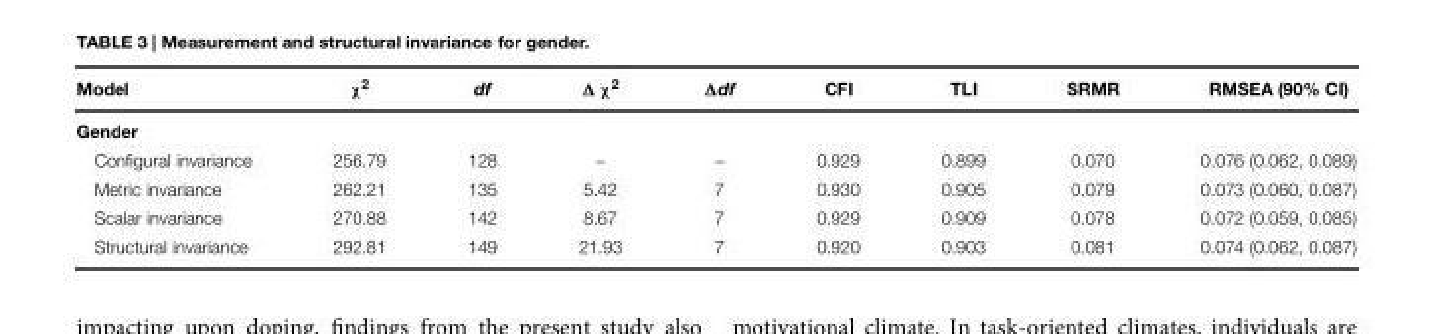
<table><thead><tr><td>Model</td><td>χ<sup>2</sup></td><td>df</td><td>Δ χ<sup>2</sup></td><td>Δdf</td><td>CFI</td><td>TLI</td><td>SRMR</td><td>RMSEA (90% CI)</td></tr></thead><tbody><tr><td colspan="9">Gender</td></tr><tr><td>Configural invariance</td><td>256.79</td><td>128</td><td>–</td><td>–</td><td>0.929</td><td>0.899</td><td>0.070</td><td>0.076 (0.062, 0.089)</td></tr><tr><td>Metric invariance</td><td>262.21</td><td>135</td><td>5.42</td><td>7</td><td>0.930</td><td>0.905</td><td>0.079</td><td>0.073 (0.060, 0.087)</td></tr><tr><td>Scalar invariance</td><td>270.88</td><td>142</td><td>8.67</td><td>7</td><td>0.929</td><td>0.909</td><td>0.078</td><td>0.072 (0.059, 0.085)</td></tr><tr><td>Structural invariance</td><td>292.81</td><td>149</td><td>21.93</td><td>7</td><td>0.920</td><td>0.903</td><td>0.081</td><td>0.074 (0.062, 0.087)</td></tr></tbody></table>